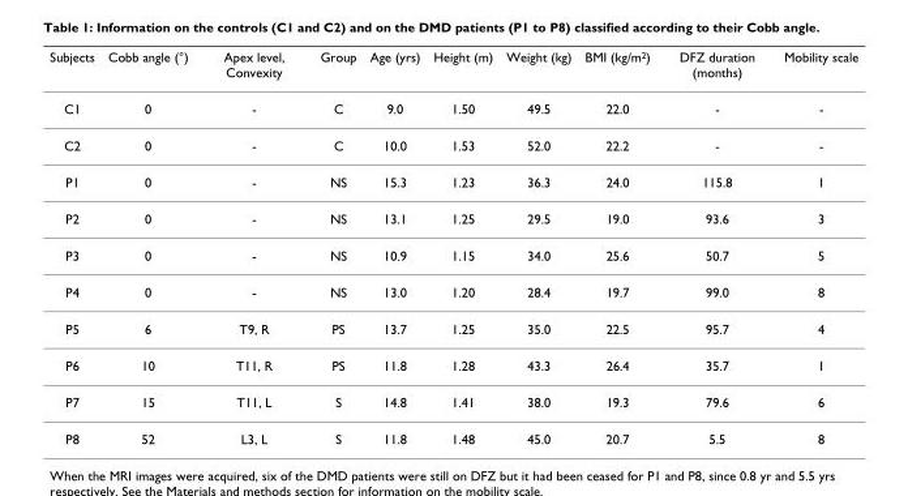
<table><thead><tr><td>Subjects</td><td>Cobb angle (°)</td><td>Apex level, Convexity</td><td>Group</td><td>Age (yrs)</td><td>Height (m)</td><td>Weight (kg)</td><td>BMI (kg/m<sup>2</sup>)</td><td>DFZ duration (months)</td><td>Mobility scale</td></tr></thead><tbody><tr><td>C1</td><td>0</td><td>-</td><td>C</td><td>9.0</td><td>1.50</td><td>49.5</td><td>22.0</td><td>-</td><td>-</td></tr><tr><td>C2</td><td>0</td><td>-</td><td>C</td><td>10.0</td><td>1.53</td><td>52.0</td><td>22.2</td><td>-</td><td>-</td></tr><tr><td>P1</td><td>0</td><td>-</td><td>NS</td><td>15.3</td><td>1.23</td><td>36.3</td><td>24.0</td><td>115.8</td><td>1</td></tr><tr><td>P2</td><td>0</td><td>-</td><td>NS</td><td>13.1</td><td>1.25</td><td>29.5</td><td>19.0</td><td>93.6</td><td>3</td></tr><tr><td>P3</td><td>0</td><td>-</td><td>NS</td><td>10.9</td><td>1.15</td><td>34.0</td><td>25.6</td><td>50.7</td><td>5</td></tr><tr><td>P4</td><td>0</td><td>-</td><td>NS</td><td>13.0</td><td>1.20</td><td>28.4</td><td>19.7</td><td>99.0</td><td>8</td></tr><tr><td>P5</td><td>6</td><td>T9, R</td><td>PS</td><td>13.7</td><td>1.25</td><td>35.0</td><td>22.5</td><td>95.7</td><td>4</td></tr><tr><td>P6</td><td>10</td><td>T11, R</td><td>PS</td><td>11.8</td><td>1.28</td><td>43.3</td><td>26.4</td><td>35.7</td><td>1</td></tr><tr><td>P7</td><td>15</td><td>T11, L</td><td>S</td><td>14.8</td><td>1.41</td><td>38.0</td><td>19.3</td><td>79.6</td><td>6</td></tr><tr><td>P8</td><td>52</td><td>L3, L</td><td>S</td><td>11.8</td><td>1.48</td><td>45.0</td><td>20.7</td><td>5.5</td><td>8</td></tr></tbody></table>